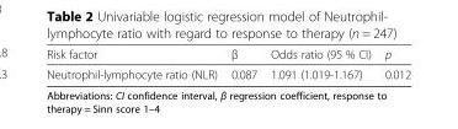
<table><thead><tr><td>Risk factor</td><td>β</td><td>Odds ratio (95 % CI)</td><td>p</td></tr></thead><tbody><tr><td>Neutrophil-lymphocyte ratio (NLR)</td><td>0.087</td><td>1.091 (1.019-1.167)</td><td>0.012</td></tr></tbody></table>